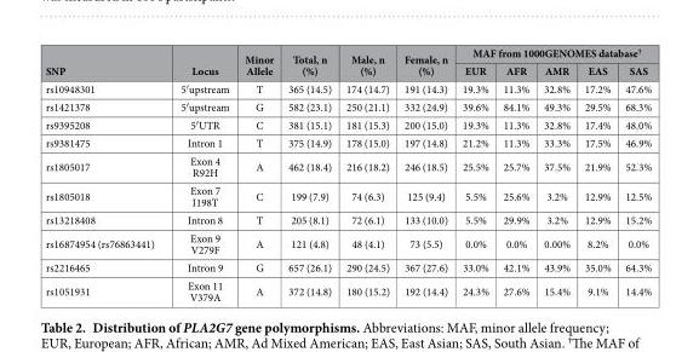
<table><thead><tr><td rowspan="2">SNP</td><td rowspan="2">Locus</td><td rowspan="2">Minor Allele</td><td rowspan="2">Total, n (%)</td><td rowspan="2">Male, n (%)</td><td rowspan="2">Female, n (%)</td><td colspan="5">MAF from 1000GENOMES database†</td></tr><tr><td>EUR</td><td>AFR</td><td>AMR</td><td>EAS</td><td>SAS</td></tr></thead><tbody><tr><td>rs10948301</td><td>5′ upstream</td><td>T</td><td>365 (14.5)</td><td>174 (14.7)</td><td>191 (14.3)</td><td>19.3%</td><td>11.3%</td><td>32.8%</td><td>17.2%</td><td>47.6%</td></tr><tr><td>rs1421378</td><td>5′ upstream</td><td>G</td><td>582 (23.1)</td><td>250 (21.1)</td><td>332 (24.9)</td><td>39.6%</td><td>84.1%</td><td>49.3%</td><td>29.5%</td><td>68.3%</td></tr><tr><td>rs9395208</td><td>5′ UTR</td><td>C</td><td>381 (15.1)</td><td>181 (15.3)</td><td>200 (15.0)</td><td>19.3%</td><td>11.3%</td><td>32.8%</td><td>17.4%</td><td>48.0%</td></tr><tr><td>rs9381475</td><td>Intron 1</td><td>T</td><td>375 (14.9)</td><td>178 (15.0)</td><td>197 (14.8)</td><td>21.2%</td><td>11.3%</td><td>33.3%</td><td>17.5%</td><td>46.9%</td></tr><tr><td>rs1805017</td><td>Exon 4 R92H</td><td>A</td><td>462 (18.4)</td><td>216 (18.2)</td><td>246 (18.5)</td><td>25.5%</td><td>25.7%</td><td>37.5%</td><td>21.9%</td><td>52.3%</td></tr><tr><td>rs1805018</td><td>Exon 7 I198T</td><td>C</td><td>199 (7.9)</td><td>74 (6.3)</td><td>125 (9.4)</td><td>5.5%</td><td>25.6%</td><td>3.2%</td><td>12.9%</td><td>12.5%</td></tr><tr><td>rs13218408</td><td>Intron 8</td><td>T</td><td>205 (8.1)</td><td>72 (6.1)</td><td>133 (10.0)</td><td>5.5%</td><td>29.9%</td><td>3.2%</td><td>12.9%</td><td>15.2%</td></tr><tr><td>rs16874954 (rs76863441)</td><td>Exon 9 V279F</td><td>A</td><td>121 (4.8)</td><td>48 (4.1)</td><td>73 (5.5)</td><td>0.0%</td><td>0.0%</td><td>0.00%</td><td>8.2%</td><td>0.0%</td></tr><tr><td>rs2216465</td><td>Intron 9</td><td>G</td><td>657 (26.1)</td><td>290 (24.5)</td><td>367 (27.6)</td><td>33.0%</td><td>42.1%</td><td>43.9%</td><td>35.0%</td><td>64.3%</td></tr><tr><td>rs1051931</td><td>Exon 11 V379A</td><td>A</td><td>372 (14.8)</td><td>180 (15.2)</td><td>192 (14.4)</td><td>24.3%</td><td>27.6%</td><td>15.4%</td><td>9.1%</td><td>14.4%</td></tr></tbody></table>